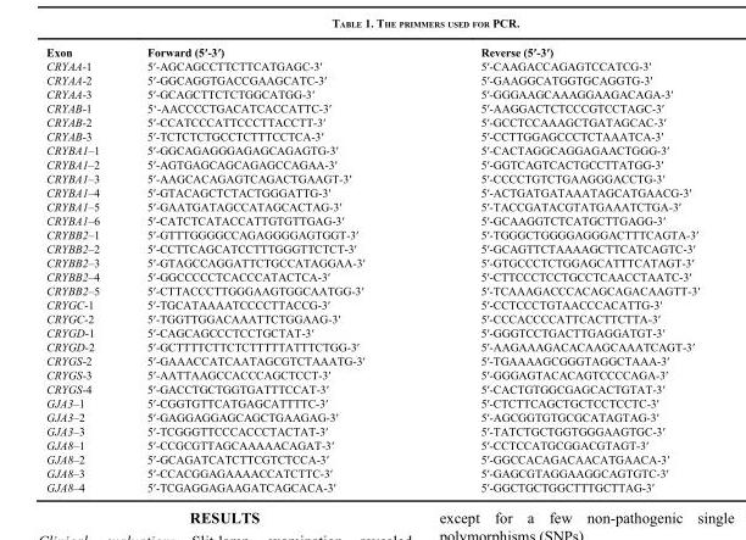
<table><thead><tr><td>Exon</td><td>Forward (5′-3′)</td><td>Reverse (5′-3′)</td></tr></thead><tbody><tr><td>CRYAA-1</td><td>5′-AGCAGCCTTCTTCATGAGC-3′</td><td>5′-CAAGACCAGAGTCCATCG-3′</td></tr><tr><td>CRYAA-2</td><td>5′-GGCAGGTGACCGAAGCATC-3′</td><td>5′-GAAGGCATGGTGCAGGTG-3′</td></tr><tr><td>CRYAA-3</td><td>5′-GCAGCTTCTCTGGCATGG-3′</td><td>5′-GGGAAGCAAAGGAAGACAGA-3′</td></tr><tr><td>CRYAB-1</td><td>5‘-AACCCCTGACATCACCATTC-3′</td><td>5′-AAGGACTCTCCCGTCCTAGC-3′</td></tr><tr><td>CRYAB-2</td><td>5′-CCATCCCATTCCCTTACCTT-3′</td><td>5′-GCCTCCAAAGCTGATAGCAC-3′</td></tr><tr><td>CRYAB-3</td><td>5′-TCTCTCTGCCTCTTTCCTCA-3′</td><td>5′-CCTTGGAGCCCTCTAAATCA-3′</td></tr><tr><td>CRYBA1–1</td><td>5′-GGCAGAGGGAGAGCAGAGTG-3′</td><td>5′-CACTAGGCAGGAGAACTGGG-3′</td></tr><tr><td>CRYBA1–2</td><td>5′-AGTGAGCAGCAGAGCCAGAA-3′</td><td>5′-GGTCAGTCACTGCCTTATGG-3′</td></tr><tr><td>CRYBA1–3</td><td>5′-AAGCACAGAGTCAGACTGAAGT-3′</td><td>5′-CCCCTGTCTGAAGGGACCTG-3′</td></tr><tr><td>CRYBA1–4</td><td>5′-GTACAGCTCTACTGGGATTG-3′</td><td>5′-ACTGATGATAAATAGCATGAACG-3′</td></tr><tr><td>CRYBA1–5</td><td>5′-GAATGATAGCCATAGCACTAG-3′</td><td>5′-TACCGATACGTATGAAATCTGA-3′</td></tr><tr><td>CRYBA1–6</td><td>5′-CATCTCATACCATTGTGTTGAG-3′</td><td>5′-GCAAGGTCTCATGCTTGAGG-3′</td></tr><tr><td>CRYBB2–1</td><td>5′-GTTTGGGGCCAGAGGGGAGTGGT-3′</td><td>5′-TGGGCTGGGGAGGGACTTTCAGTA-3′</td></tr><tr><td>CRYBB2–2</td><td>5′-CCTTCAGCATCCTTTGGGTTCTCT-3′</td><td>5′-GCAGTTCTAAAAGCTTCATCAGTC-3′</td></tr><tr><td>CRYBB2–3</td><td>5′-GTAGCCAGGATTCTGCCATAGGAA-3′</td><td>5′-GTGCCCTCTGGAGCATTTCATAGT-3′</td></tr><tr><td>CRYBB2–4</td><td>5′-GGCCCCCTCACCCATACTCA-3′</td><td>5′-CTTCCCTCCTGCCTCAACCTAATC-3′</td></tr><tr><td>CRYBB2–5</td><td>5′-CTTACCCTTGGGAAGTGGCAATGG-3′</td><td>5′-TCAAAGACCCACAGCAGACAAGTT-3′</td></tr><tr><td>CRYGC-1</td><td>5′-TGCATAAAATCCCCTTACCG-3′</td><td>5′-CCTCCCTGTAACCCACATTG-3′</td></tr><tr><td>CRYGC-2</td><td>5′-TGGTTGGACAAATTCTGGAAG-3′</td><td>5′-CCCACCCCATTCACTTCTTA-3′</td></tr><tr><td>CRYGD-1</td><td>5′-CAGCAGCCCTCCTGCTAT-3′</td><td>5′-GGGTCCTGACTTGAGGATGT-3′</td></tr><tr><td>CRYGD-2</td><td>5′-GCTTTTCTTCTCTTTTTATTTCTGG-3′</td><td>5′-AAGAAAGACACAAGCAAATCAGT-3′</td></tr><tr><td>CRYGS-2</td><td>5′-GAAACCATCAATAGCGTCTAAATG-3′</td><td>5′-TGAAAAGCGGGTAGGCTAAA-3′</td></tr><tr><td>CRYGS-3</td><td>5′-AATTAAGCCACCCAGCTCCT-3′</td><td>5′-GGGAGTACACAGTCCCCAGA-3′</td></tr><tr><td>CRYGS-4</td><td>5′-GACCTGCTGGTGATTTCCAT-3′</td><td>5′-CACTGTGGCGAGCACTGTAT-3′</td></tr><tr><td>GJA3–1</td><td>5′-CGGTGTTCATGAGCATTTTC-3′</td><td>5′-CTCTTCAGCTGCTCCTCCTC-3′</td></tr><tr><td>GJA3–2</td><td>5′-GAGGAGGAGCAGCTGAAGAG-3′</td><td>5′-AGCGGTGTGCGCATAGTAG-3′</td></tr><tr><td>GJA3–3</td><td>5′-TCGGGTTCCCACCCTACTAT-3′</td><td>5′-TATCTGCTGGTGGGAAGTGC-3′</td></tr><tr><td>GJA8–1</td><td>5′-CCGCGTTAGCAAAAACAGAT-3′</td><td>5′-CCTCCATGCGGACGTAGT-3′</td></tr><tr><td>GJA8–2</td><td>5′-GCAGATCATCTTCGTCTCCA-3′</td><td>5′-GGCCACAGACAACATGAACA-3′</td></tr><tr><td>GJA8–3</td><td>5′-CCACGGAGAAAACCATCTTC-3′</td><td>5′-GAGCGTAGGAAGGCAGTGTC-3′</td></tr><tr><td>GJA8–4</td><td>5′-TCGAGGAGAAGATCAGCACA-3′</td><td>5′-GGCTGCTGGCTTTGCTTAG-3′</td></tr></tbody></table>